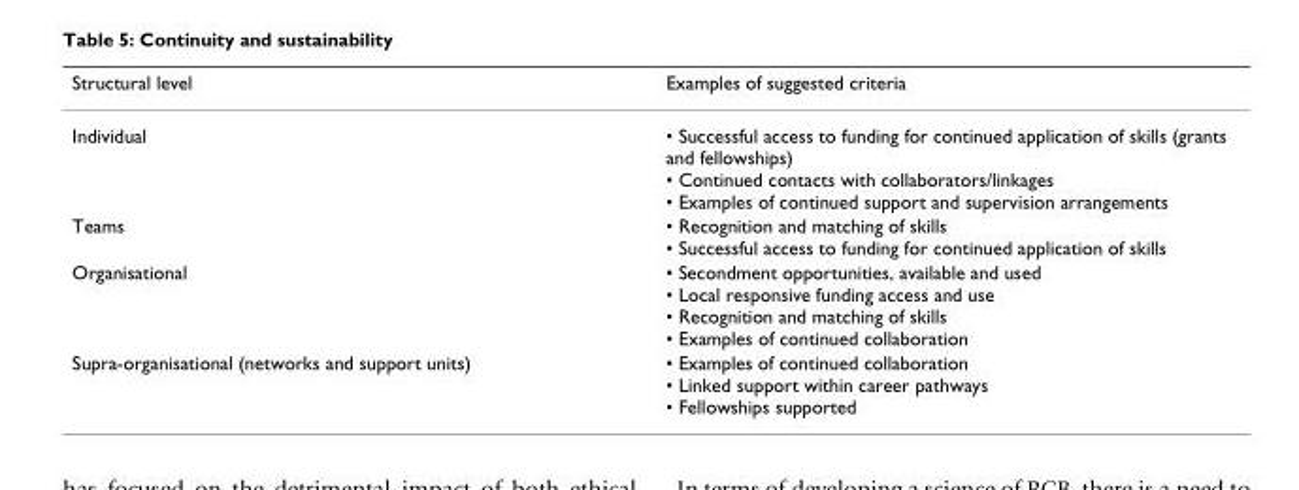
<table><thead><tr><td>Structural level</td><td>Examples of suggested criteria</td></tr></thead><tbody><tr><td>Individual</td><td>• Successful access to funding for continued application of skills (grants and fellowships) • Continued contacts with collaborators/linkages • Examples of continued support and supervision arrangements</td></tr><tr><td>Teams</td><td>• Recognition and matching of skills • Successful access to funding for continued application of skills</td></tr><tr><td>Organisational</td><td>• Secondment opportunities, available and used • Local responsive funding access and use • Recognition and matching of skills • Examples of continued collaboration</td></tr><tr><td>Supra-organisational (networks and support units)</td><td>• Examples of continued collaboration • Linked support within career pathways • Fellowships supported</td></tr></tbody></table>